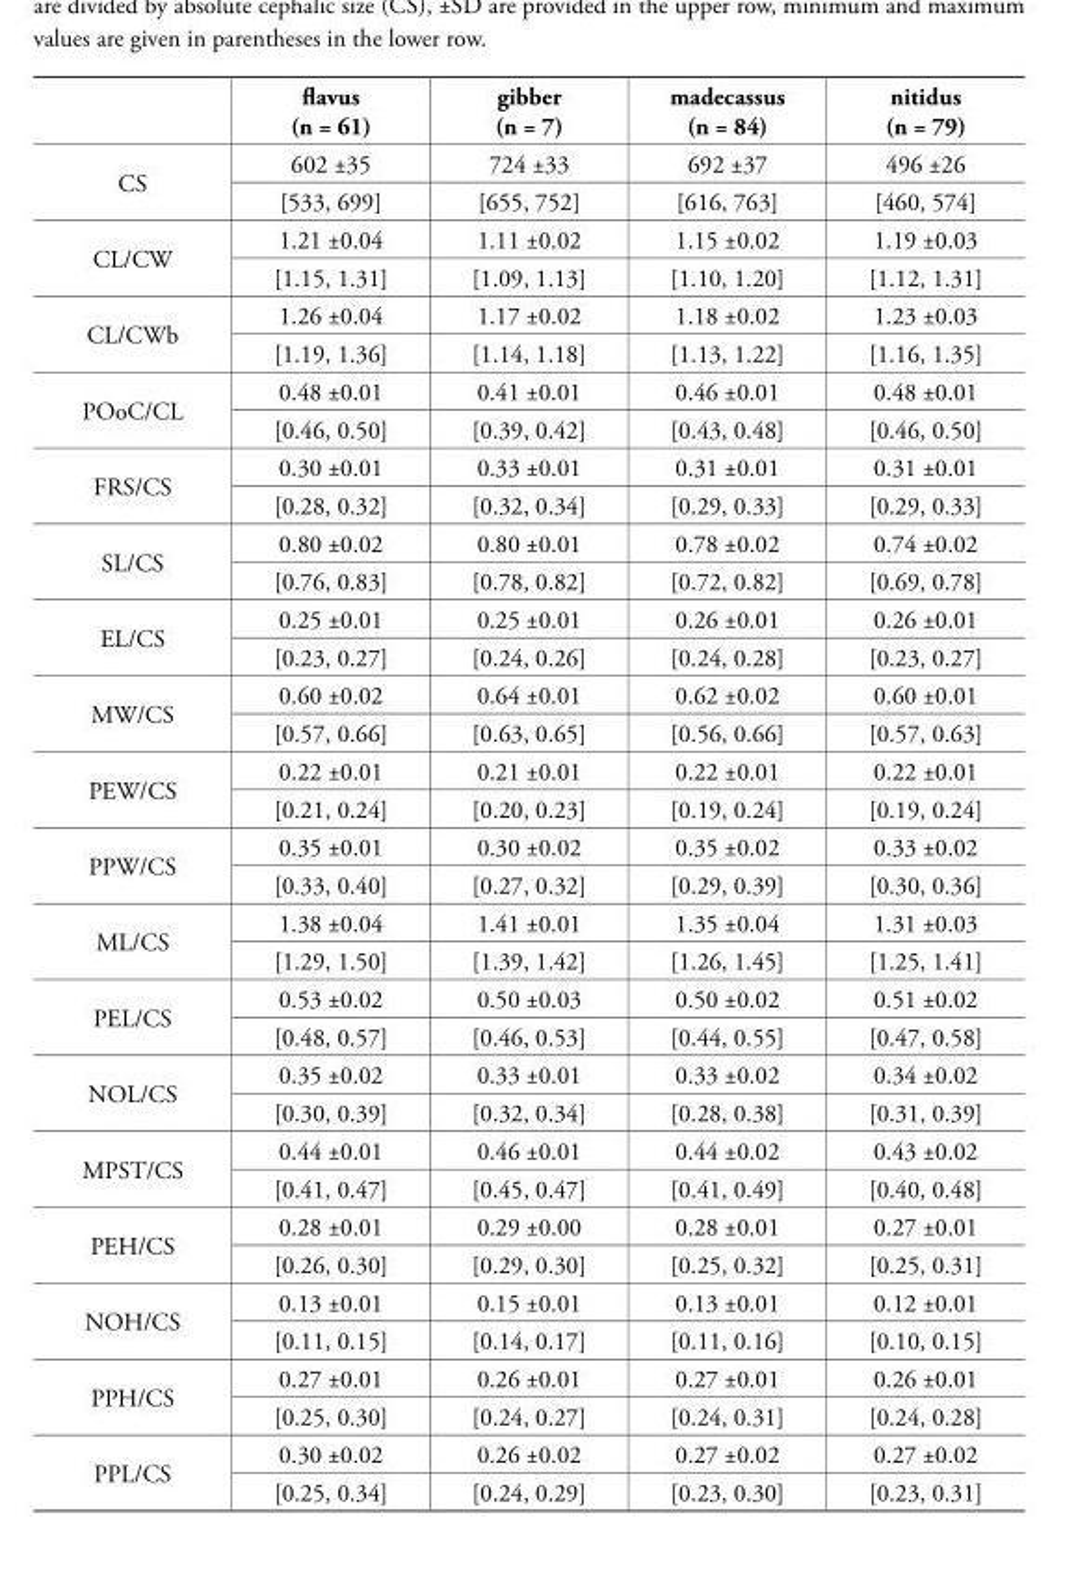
<table><thead><tr><td></td><td>flavus (n = 61)</td><td>gibber (n = 7)</td><td>madecassus (n = 84)</td><td>nitidus (n = 79)</td></tr></thead><tbody><tr><td rowspan="2">CS</td><td>602 ±35</td><td>724 ±33</td><td>692 ±37</td><td>496 ±26</td></tr><tr><td>[533, 699]</td><td>[655, 752]</td><td>[616, 763]</td><td>[460, 574]</td></tr><tr><td rowspan="2">CL/CW</td><td>1.21 ±0.04</td><td>1.11 ±0.02</td><td>1.15 ±0.02</td><td>1.19 ±0.03</td></tr><tr><td>[1.15, 1.31]</td><td>[1.09, 1.13]</td><td>[1.10, 1.20]</td><td>[1.12, 1.31]</td></tr><tr><td rowspan="2">CL/CWb</td><td>1.26 ±0.04</td><td>1.17 ±0.02</td><td>1.18 ±0.02</td><td>1.23 ±0.03</td></tr><tr><td>[1.19, 1.36]</td><td>[1.14, 1.18]</td><td>[1.13, 1.22]</td><td>[1.16, 1.35]</td></tr><tr><td rowspan="2">POoC/CL</td><td>0.48 ±0.01</td><td>0.41 ±0.01</td><td>0.46 ±0.01</td><td>0.48 ±0.01</td></tr><tr><td>[0.46, 0.50]</td><td>[0.39, 0.42]</td><td>[0.43, 0.48]</td><td>[0.46, 0.50]</td></tr><tr><td rowspan="2">FRS/CS</td><td>0.30 ±0.01</td><td>0.33 ±0.01</td><td>0.31 ±0.01</td><td>0.31 ±0.01</td></tr><tr><td>[0.28, 0.32]</td><td>[0.32, 0.34]</td><td>[0.29, 0.33]</td><td>[0.29, 0.33]</td></tr><tr><td rowspan="2">SL/CS</td><td>0.80 ±0.02</td><td>0.80 ±0.01</td><td>0.78 ±0.02</td><td>0.74 ±0.02</td></tr><tr><td>[0.76, 0.83]</td><td>[0.78, 0.82]</td><td>[0.72, 0.82]</td><td>[0.69, 0.78]</td></tr><tr><td rowspan="2">EL/CS</td><td>0.25 ±0.01</td><td>0.25 ±0.01</td><td>0.26 ±0.01</td><td>0.26 ±0.01</td></tr><tr><td>[0.23, 0.27]</td><td>[0.24, 0.26]</td><td>[0.24, 0.28]</td><td>[0.23, 0.27]</td></tr><tr><td rowspan="2">MW/CS</td><td>0.60 ±0.02</td><td>0.64 ±0.01</td><td>0.62 ±0.02</td><td>0.60 ±0.01</td></tr><tr><td>[0.57, 0.66]</td><td>[0.63, 0.65]</td><td>[0.56, 0.66]</td><td>[0.57, 0.63]</td></tr><tr><td rowspan="2">PEW/CS</td><td>0.22 ±0.01</td><td>0.21 ±0.01</td><td>0.22 ±0.01</td><td>0.22 ±0.01</td></tr><tr><td>[0.21, 0.24]</td><td>[0.20, 0.23]</td><td>[0.19, 0.24]</td><td>[0.19, 0.24]</td></tr><tr><td rowspan="2">PPW/CS</td><td>0.35 ±0.01</td><td>0.30 ±0.02</td><td>0.35 ±0.02</td><td>0.33 ±0.02</td></tr><tr><td>[0.33, 0.40]</td><td>[0.27, 0.32]</td><td>[0.29, 0.39]</td><td>[0.30, 0.36]</td></tr><tr><td rowspan="2">ML/CS</td><td>1.38 ±0.04</td><td>1.41 ±0.01</td><td>1.35 ±0.04</td><td>1.31 ±0.03</td></tr><tr><td>[1.29, 1.50]</td><td>[1.39, 1.42]</td><td>[1.26, 1.45]</td><td>[1.25, 1.41]</td></tr><tr><td rowspan="2">PEL/CS</td><td>0.53 ±0.02</td><td>0.50 ±0.03</td><td>0.50 ±0.02</td><td>0.51 ±0.02</td></tr><tr><td>[0.48, 0.57]</td><td>[0.46, 0.53]</td><td>[0.44, 0.55]</td><td>[0.47, 0.58]</td></tr><tr><td rowspan="2">NOL/CS</td><td>0.35 ±0.02</td><td>0.33 ±0.01</td><td>0.33 ±0.02</td><td>0.34 ±0.02</td></tr><tr><td>[0.30, 0.39]</td><td>[0.32, 0.34]</td><td>[0.28, 0.38]</td><td>[0.31, 0.39]</td></tr><tr><td rowspan="2">MPST/CS</td><td>0.44 ±0.01</td><td>0.46 ±0.01</td><td>0.44 ±0.02</td><td>0.43 ±0.02</td></tr><tr><td>[0.41, 0.47]</td><td>[0.45, 0.47]</td><td>[0.41, 0.49]</td><td>[0.40, 0.48]</td></tr><tr><td rowspan="2">PEH/CS</td><td>0.28 ±0.01</td><td>0.29 ±0.00</td><td>0.28 ±0.01</td><td>0.27 ±0.01</td></tr><tr><td>[0.26, 0.30]</td><td>[0.29, 0.30]</td><td>[0.25, 0.32]</td><td>[0.25, 0.31]</td></tr><tr><td rowspan="2">NOH/CS</td><td>0.13 ±0.01</td><td>0.15 ±0.01</td><td>0.13 ±0.01</td><td>0.12 ±0.01</td></tr><tr><td>[0.11, 0.15]</td><td>[0.14, 0.17]</td><td>[0.11, 0.16]</td><td>[0.10, 0.15]</td></tr><tr><td rowspan="2">PPH/CS</td><td>0.27 ±0.01</td><td>0.26 ±0.01</td><td>0.27 ±0.01</td><td>0.26 ±0.01</td></tr><tr><td>[0.25, 0.30]</td><td>[0.24, 0.27]</td><td>[0.24, 0.31]</td><td>[0.24, 0.28]</td></tr><tr><td rowspan="2">PPL/CS</td><td>0.30 ±0.02</td><td>0.26 ±0.02</td><td>0.27 ±0.02</td><td>0.27 ±0.02</td></tr><tr><td>[0.25, 0.34]</td><td>[0.24, 0.29]</td><td>[0.23, 0.30]</td><td>[0.23, 0.31]</td></tr></tbody></table>